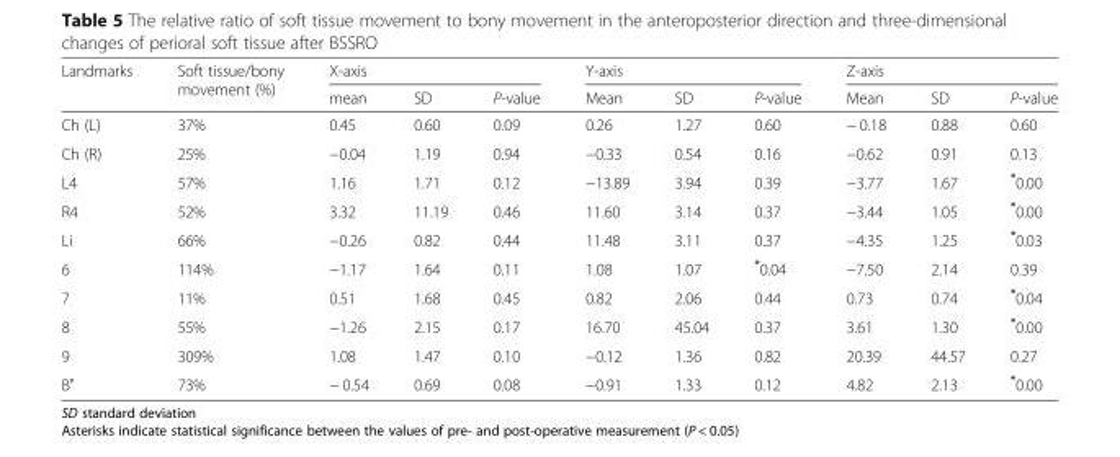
<table><thead><tr><td rowspan="2">Landmarks</td><td rowspan="2">Soft tissue/bony movement (%)</td><td colspan="3">X-axis</td><td colspan="3">Y-axis</td><td colspan="3">Z-axis</td></tr><tr><td>mean</td><td>SD</td><td>P-value</td><td>Mean</td><td>SD</td><td>P-value</td><td>Mean</td><td>SD</td><td>P-value</td></tr></thead><tbody><tr><td>Ch (L)</td><td>37%</td><td>0.45</td><td>0.60</td><td>0.09</td><td>0.26</td><td>1.27</td><td>0.60</td><td>− 0.18</td><td>0.88</td><td>0.60</td></tr><tr><td>Ch (R)</td><td>25%</td><td>−0.04</td><td>1.19</td><td>0.94</td><td>−0.33</td><td>0.54</td><td>0.16</td><td>−0.62</td><td>0.91</td><td>0.13</td></tr><tr><td>L4</td><td>57%</td><td>1.16</td><td>1.71</td><td>0.12</td><td>−13.89</td><td>3.94</td><td>0.39</td><td>−3.77</td><td>1.67</td><td>*0.00</td></tr><tr><td>R4</td><td>52%</td><td>3.32</td><td>11.19</td><td>0.46</td><td>11.60</td><td>3.14</td><td>0.37</td><td>−3.44</td><td>1.05</td><td>*0.00</td></tr><tr><td>Li</td><td>66%</td><td>−0.26</td><td>0.82</td><td>0.44</td><td>11.48</td><td>3.11</td><td>0.37</td><td>−4.35</td><td>1.25</td><td>*0.03</td></tr><tr><td>6</td><td>114%</td><td>−1.17</td><td>1.64</td><td>0.11</td><td>1.08</td><td>1.07</td><td>*0.04</td><td>−7.50</td><td>2.14</td><td>0.39</td></tr><tr><td>7</td><td>11%</td><td>0.51</td><td>1.68</td><td>0.45</td><td>0.82</td><td>2.06</td><td>0.44</td><td>0.73</td><td>0.74</td><td>*0.04</td></tr><tr><td>8</td><td>55%</td><td>−1.26</td><td>2.15</td><td>0.17</td><td>16.70</td><td>45.04</td><td>0.37</td><td>3.61</td><td>1.30</td><td>*0.00</td></tr><tr><td>9</td><td>309%</td><td>1.08</td><td>1.47</td><td>0.10</td><td>−0.12</td><td>1.36</td><td>0.82</td><td>20.39</td><td>44.57</td><td>0.27</td></tr><tr><td>B′</td><td>73%</td><td>− 0.54</td><td>0.69</td><td>0.08</td><td>−0.91</td><td>1.33</td><td>0.12</td><td>4.82</td><td>2.13</td><td>*0.00</td></tr></tbody></table>